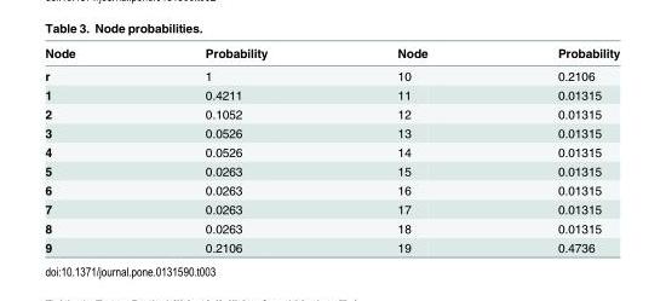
<table><thead><tr><td>Node</td><td>Probability</td><td>Node</td><td>Probability</td></tr></thead><tbody><tr><td>r</td><td>1</td><td>10</td><td>0.2106</td></tr><tr><td>1</td><td>0.4211</td><td>11</td><td>0.01315</td></tr><tr><td>2</td><td>0.1052</td><td>12</td><td>0.01315</td></tr><tr><td>3</td><td>0.0526</td><td>13</td><td>0.01315</td></tr><tr><td>4</td><td>0.0526</td><td>14</td><td>0.01315</td></tr><tr><td>5</td><td>0.0263</td><td>15</td><td>0.01315</td></tr><tr><td>6</td><td>0.0263</td><td>16</td><td>0.01315</td></tr><tr><td>7</td><td>0.0263</td><td>17</td><td>0.01315</td></tr><tr><td>8</td><td>0.0263</td><td>18</td><td>0.01315</td></tr><tr><td>9</td><td>0.2106</td><td>19</td><td>0.4736</td></tr></tbody></table>